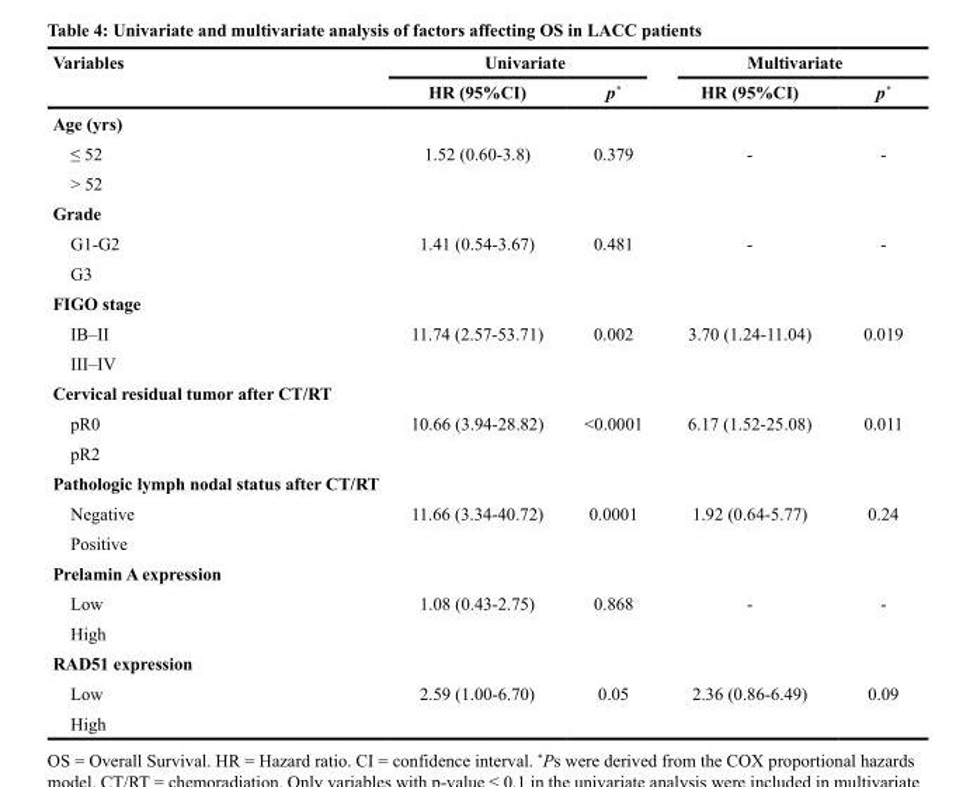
<table><thead><tr><td rowspan="2">Variables</td><td colspan="2">Univariate</td><td colspan="2">Multivariate</td></tr><tr><td>HR (95%CI)</td><td>p*</td><td>HR (95%CI)</td><td>p*</td></tr></thead><tbody><tr><td colspan="5">Age (yrs)</td></tr><tr><td>≤ 52</td><td>1.52 (0.60-3.8)</td><td>0.379</td><td>-</td><td>-</td></tr><tr><td colspan="5">&gt; 52</td></tr><tr><td colspan="5">Grade</td></tr><tr><td>G1-G2</td><td>1.41 (0.54-3.67)</td><td>0.481</td><td>-</td><td>-</td></tr><tr><td colspan="5">G3</td></tr><tr><td colspan="5">FIGO stage</td></tr><tr><td>IB–II</td><td>11.74 (2.57-53.71)</td><td>0.002</td><td>3.70 (1.24-11.04)</td><td>0.019</td></tr><tr><td colspan="5">III–IV</td></tr><tr><td colspan="5">Cervical residual tumor after CT/RT</td></tr><tr><td>pR0</td><td>10.66 (3.94-28.82)</td><td>&lt;0.0001</td><td>6.17 (1.52-25.08)</td><td>0.011</td></tr><tr><td colspan="5">pR2</td></tr><tr><td colspan="5">Pathologic lymph nodal status after CT/RT</td></tr><tr><td>Negative</td><td>11.66 (3.34-40.72)</td><td>0.0001</td><td>1.92 (0.64-5.77)</td><td>0.24</td></tr><tr><td colspan="5">Positive</td></tr><tr><td colspan="5">Prelamin A expression</td></tr><tr><td>Low</td><td>1.08 (0.43-2.75)</td><td>0.868</td><td>-</td><td>-</td></tr><tr><td colspan="5">High</td></tr><tr><td colspan="5">RAD51 expression</td></tr><tr><td>Low</td><td>2.59 (1.00-6.70)</td><td>0.05</td><td>2.36 (0.86-6.49)</td><td>0.09</td></tr><tr><td>High</td><td></td><td></td><td></td><td></td></tr></tbody></table>